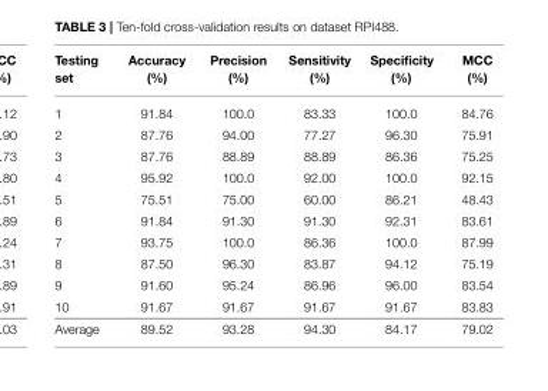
<table><thead><tr><td>Testing set</td><td>Accuracy (%)</td><td>Precision (%)</td><td>Sensitivity (%)</td><td>Specificity (%)</td><td>MCC (%)</td></tr></thead><tbody><tr><td>1</td><td>91.84</td><td>100.0</td><td>83.33</td><td>100.0</td><td>84.76</td></tr><tr><td>2</td><td>87.76</td><td>94.00</td><td>77.27</td><td>96.30</td><td>75.91</td></tr><tr><td>3</td><td>87.76</td><td>88.89</td><td>88.89</td><td>86.36</td><td>75.25</td></tr><tr><td>4</td><td>95.92</td><td>100.0</td><td>92.00</td><td>100.0</td><td>92.15</td></tr><tr><td>5</td><td>75.51</td><td>75.00</td><td>60.00</td><td>86.21</td><td>48.43</td></tr><tr><td>6</td><td>91.84</td><td>91.30</td><td>91.30</td><td>92.31</td><td>83.61</td></tr><tr><td>7</td><td>93.75</td><td>100.0</td><td>86.36</td><td>100.0</td><td>87.99</td></tr><tr><td>8</td><td>87.50</td><td>96.30</td><td>83.87</td><td>94.12</td><td>75.19</td></tr><tr><td>9</td><td>91.60</td><td>95.24</td><td>86.96</td><td>96.00</td><td>83.54</td></tr><tr><td>10</td><td>91.67</td><td>91.67</td><td>91.67</td><td>91.67</td><td>83.83</td></tr><tr><td>Average</td><td>89.52</td><td>93.28</td><td>94.30</td><td>84.17</td><td>79.02</td></tr></tbody></table>